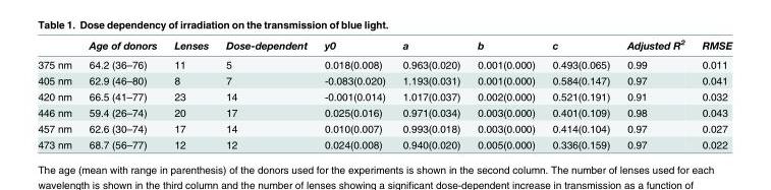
<table><thead><tr><td></td><td>Age of donors</td><td>Lenses</td><td>Dose-dependent</td><td>y0</td><td>a</td><td>b</td><td>c</td><td>Adjusted R<sup>2</sup></td><td>RMSE</td></tr></thead><tbody><tr><td>375 nm</td><td>64.2 (36–76)</td><td>11</td><td>5</td><td>0.018(0.008)</td><td>0.963(0.020)</td><td>0.001(0.000)</td><td>0.493(0.065)</td><td>0.99</td><td>0.011</td></tr><tr><td>405 nm</td><td>62.9 (46–80)</td><td>8</td><td>7</td><td>-0.083(0.020)</td><td>1.193(0.031)</td><td>0.001(0.000)</td><td>0.584(0.147)</td><td>0.97</td><td>0.041</td></tr><tr><td>420 nm</td><td>66.5 (41–77)</td><td>23</td><td>14</td><td>-0.001(0.014)</td><td>1.017(0.037)</td><td>0.002(0.000)</td><td>0.521(0.191)</td><td>0.91</td><td>0.032</td></tr><tr><td>446 nm</td><td>59.4 (26–74)</td><td>20</td><td>17</td><td>0.025(0.016)</td><td>0.971(0.034)</td><td>0.003(0.000)</td><td>0.401(0.109)</td><td>0.98</td><td>0.043</td></tr><tr><td>457 nm</td><td>62.6 (30–74)</td><td>17</td><td>14</td><td>0.010(0.007)</td><td>0.993(0.018)</td><td>0.003(0.000)</td><td>0.414(0.104)</td><td>0.97</td><td>0.027</td></tr><tr><td>473 nm</td><td>68.7 (56–77)</td><td>12</td><td>12</td><td>0.024(0.008)</td><td>0.940(0.020)</td><td>0.005(0.000)</td><td>0.336(0.159)</td><td>0.97</td><td>0.022</td></tr></tbody></table>